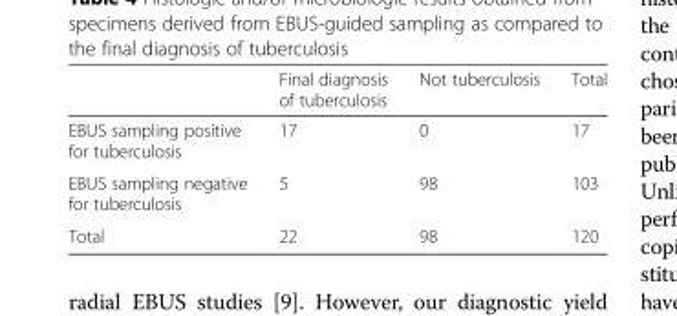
<table><thead><tr><td></td><td>Final diagnosis of tuberculosis</td><td>Not tuberculosis</td><td>Total</td></tr></thead><tbody><tr><td>EBUS sampling positive for tuberculosis</td><td>17</td><td>0</td><td>17</td></tr><tr><td>EBUS sampling negative for tuberculosis</td><td>5</td><td>98</td><td>103</td></tr><tr><td>Total</td><td>22</td><td>98</td><td>120</td></tr></tbody></table>